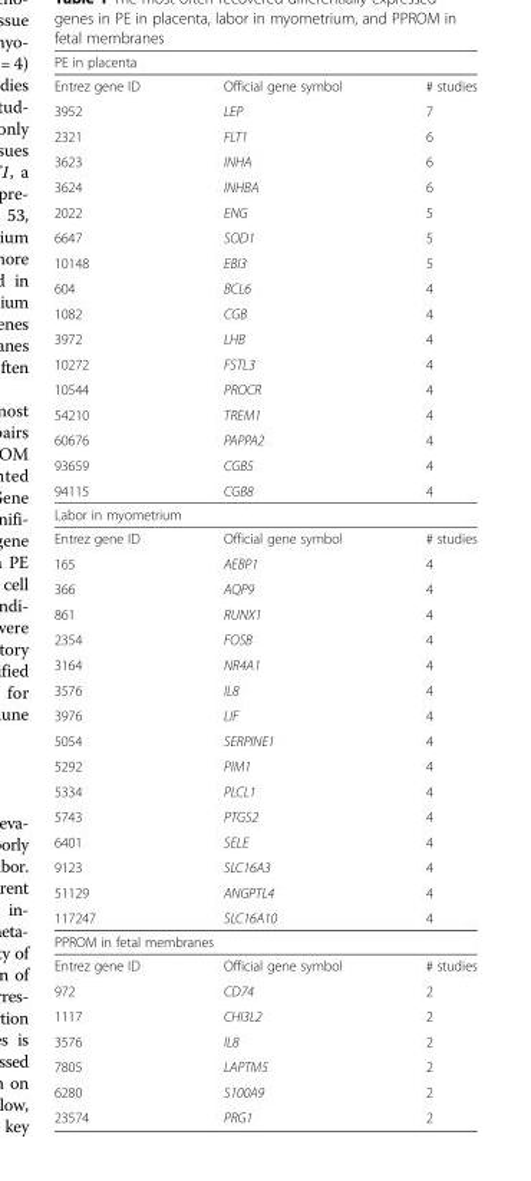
<table><tbody><tr><td colspan="3">PE in placenta</td></tr><tr><td>Entrez gene ID</td><td>Official gene symbol</td><td># studies</td></tr><tr><td>3952</td><td>LEP</td><td>7</td></tr><tr><td>2321</td><td>FLT1</td><td>6</td></tr><tr><td>3623</td><td>INHA</td><td>6</td></tr><tr><td>3624</td><td>INHBA</td><td>6</td></tr><tr><td>2022</td><td>ENG</td><td>5</td></tr><tr><td>6647</td><td>SOD1</td><td>5</td></tr><tr><td>10148</td><td>EBI3</td><td>5</td></tr><tr><td>604</td><td>BCL6</td><td>4</td></tr><tr><td>1082</td><td>CGB</td><td>4</td></tr><tr><td>3972</td><td>LHB</td><td>4</td></tr><tr><td>10272</td><td>FSTL3</td><td>4</td></tr><tr><td>10544</td><td>PROCR</td><td>4</td></tr><tr><td>54210</td><td>TREM1</td><td>4</td></tr><tr><td>60676</td><td>PAPPA2</td><td>4</td></tr><tr><td>93659</td><td>CGB5</td><td>4</td></tr><tr><td>94115</td><td>CGB8</td><td>4</td></tr><tr><td colspan="3">Labor in myometrium</td></tr><tr><td>Entrez gene ID</td><td>Official gene symbol</td><td># studies</td></tr><tr><td>165</td><td>AEBP1</td><td>4</td></tr><tr><td>366</td><td>AQP9</td><td>4</td></tr><tr><td>861</td><td>RUNX1</td><td>4</td></tr><tr><td>2354</td><td>FOSB</td><td>4</td></tr><tr><td>3164</td><td>NR4A1</td><td>4</td></tr><tr><td>3576</td><td>IL8</td><td>4</td></tr><tr><td>3976</td><td>LIF</td><td>4</td></tr><tr><td>5054</td><td>SERPINE1</td><td>4</td></tr><tr><td>5292</td><td>PIM1</td><td>4</td></tr><tr><td>5334</td><td>PLCL1</td><td>4</td></tr><tr><td>5743</td><td>PTGS2</td><td>4</td></tr><tr><td>6401</td><td>SELE</td><td>4</td></tr><tr><td>9123</td><td>SLC16A3</td><td>4</td></tr><tr><td>51129</td><td>ANGPTL4</td><td>4</td></tr><tr><td>117247</td><td>SLC16A10</td><td>4</td></tr><tr><td colspan="3">PPROM in fetal membranes</td></tr><tr><td>Entrez gene ID</td><td>Official gene symbol</td><td># studies</td></tr><tr><td>972</td><td>CD74</td><td>2</td></tr><tr><td>1117</td><td>CHI3L2</td><td>2</td></tr><tr><td>3576</td><td>IL8</td><td>2</td></tr><tr><td>7805</td><td>LAPTM5</td><td>2</td></tr><tr><td>6280</td><td>S100A9</td><td>2</td></tr><tr><td>23574</td><td>PRG1</td><td>2</td></tr></tbody></table>